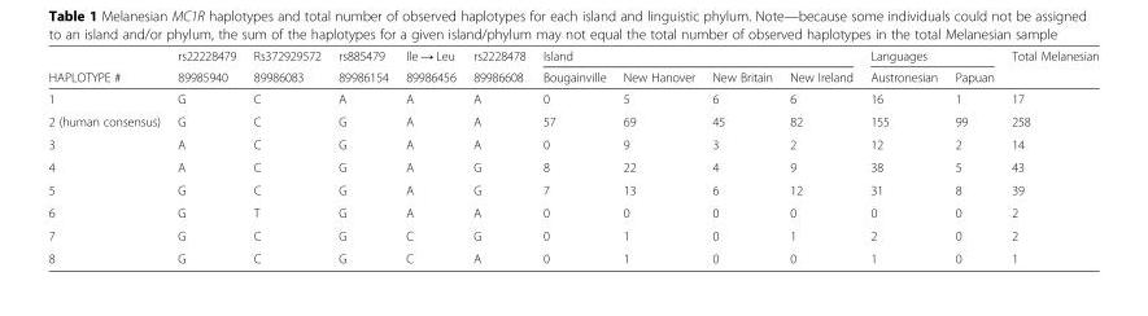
<table><thead><tr><td rowspan="2">HAPLOTYPE #</td><td rowspan="2">rs22228479 89985940</td><td rowspan="2">Rs372929572 89986083</td><td rowspan="2">rs885479 89986154</td><td rowspan="2">Ile → Leu 89986456</td><td rowspan="2">rs2228478 89986608</td><td colspan="4">Island</td><td colspan="2">Languages</td><td rowspan="2">Total Melanesian</td></tr><tr><td>Bougainville</td><td>New Hanover</td><td>New Britain</td><td>New Ireland</td><td>Austronesian</td><td>Papuan</td></tr></thead><tbody><tr><td>1</td><td>G</td><td>C</td><td>A</td><td>A</td><td>A</td><td>0</td><td>5</td><td>6</td><td>6</td><td>16</td><td>1</td><td>17</td></tr><tr><td>2 (human consensus)</td><td>G</td><td>C</td><td>G</td><td>A</td><td>A</td><td>57</td><td>69</td><td>45</td><td>82</td><td>155</td><td>99</td><td>258</td></tr><tr><td>3</td><td>A</td><td>C</td><td>G</td><td>A</td><td>A</td><td>0</td><td>9</td><td>3</td><td>2</td><td>12</td><td>2</td><td>14</td></tr><tr><td>4</td><td>A</td><td>C</td><td>G</td><td>A</td><td>G</td><td>8</td><td>22</td><td>4</td><td>9</td><td>38</td><td>5</td><td>43</td></tr><tr><td>5</td><td>G</td><td>C</td><td>G</td><td>A</td><td>G</td><td>7</td><td>13</td><td>6</td><td>12</td><td>31</td><td>8</td><td>39</td></tr><tr><td>6</td><td>G</td><td>T</td><td>G</td><td>A</td><td>A</td><td>0</td><td>0</td><td>0</td><td>0</td><td>0</td><td>0</td><td>2</td></tr><tr><td>7</td><td>G</td><td>C</td><td>G</td><td>C</td><td>G</td><td>0</td><td>1</td><td>0</td><td>1</td><td>2</td><td>0</td><td>2</td></tr><tr><td>8</td><td>G</td><td>C</td><td>G</td><td>C</td><td>A</td><td>0</td><td>1</td><td>0</td><td>0</td><td>1</td><td>0</td><td>1</td></tr></tbody></table>